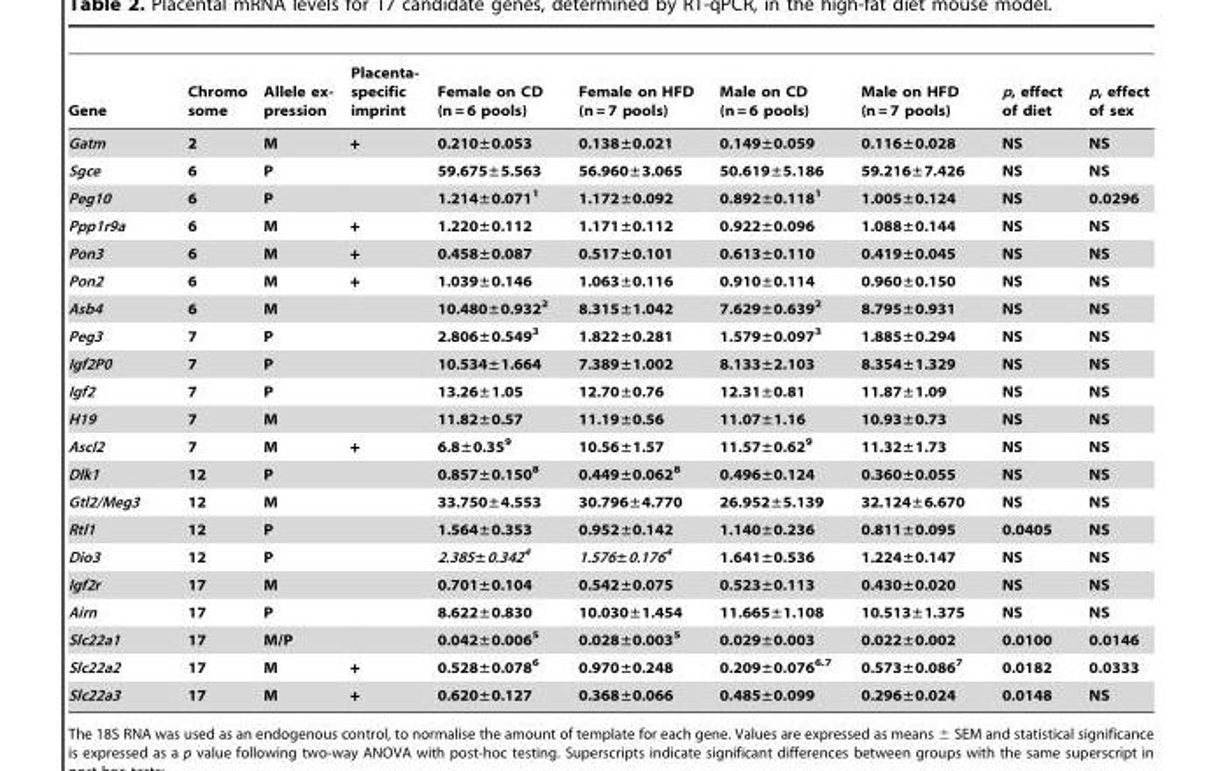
<table><thead><tr><td>Gene</td><td>Chromo some</td><td>Allele ex- pression</td><td>Placenta- specific imprint</td><td>Female on CD (n = 6 pools)</td><td>Female on HFD (n = 7 pools)</td><td>Male on CD (n = 6 pools)</td><td>Male on HFD (n = 7 pools)</td><td>p, effect of diet</td><td>p, effect of sex</td></tr></thead><tbody><tr><td>Gatm</td><td>2</td><td>M</td><td>+</td><td>0.210±0.053</td><td>0.138±0.021</td><td>0.149±0.059</td><td>0.116±0.028</td><td>NS</td><td>NS</td></tr><tr><td>Sgce</td><td>6</td><td>P</td><td></td><td>59.675±5.563</td><td>56.960±3.065</td><td>50.619±5.186</td><td>59.216±7.426</td><td>NS</td><td>NS</td></tr><tr><td>Peg10</td><td>6</td><td>P</td><td></td><td>1.214±0.0711</td><td>1.172±0.092</td><td>0.892±0.1181</td><td>1.005±0.124</td><td>NS</td><td>0.0296</td></tr><tr><td>Ppp1r9a</td><td>6</td><td>M</td><td>+</td><td>1.220±0.112</td><td>1.171±0.112</td><td>0.922±0.096</td><td>1.088±0.144</td><td>NS</td><td>NS</td></tr><tr><td>Pon3</td><td>6</td><td>M</td><td>+</td><td>0.458±0.087</td><td>0.517±0.101</td><td>0.613±0.110</td><td>0.419±0.045</td><td>NS</td><td>NS</td></tr><tr><td>Pon2</td><td>6</td><td>M</td><td>+</td><td>1.039±0.146</td><td>1.063±0.116</td><td>0.910±0.114</td><td>0.960±0.150</td><td>NS</td><td>NS</td></tr><tr><td>Asb4</td><td>6</td><td>M</td><td></td><td>10.480±0.9322</td><td>8.315±1.042</td><td>7.629±0.6392</td><td>8.795±0.931</td><td>NS</td><td>NS</td></tr><tr><td>Peg3</td><td>7</td><td>P</td><td></td><td>2.806±0.5493</td><td>1.822±0.281</td><td>1.579±0.0973</td><td>1.885±0.294</td><td>NS</td><td>NS</td></tr><tr><td>Igf2P0</td><td>7</td><td>P</td><td></td><td>10.534±1.664</td><td>7.389±1.002</td><td>8.133±2.103</td><td>8.354±1.329</td><td>NS</td><td>NS</td></tr><tr><td>Igf2</td><td>7</td><td>P</td><td></td><td>13.26±1.05</td><td>12.70±0.76</td><td>12.31±0.81</td><td>11.87±1.09</td><td>NS</td><td>NS</td></tr><tr><td>H19</td><td>7</td><td>M</td><td></td><td>11.82±0.57</td><td>11.19±0.56</td><td>11.07±1.16</td><td>10.93±0.73</td><td>NS</td><td>NS</td></tr><tr><td>Ascl2</td><td>7</td><td>M</td><td>+</td><td>6.8±0.359</td><td>10.56±1.57</td><td>11.57±0.629</td><td>11.32±1.73</td><td>NS</td><td>NS</td></tr><tr><td>Dlk1</td><td>12</td><td>P</td><td></td><td>0.857±0.1508</td><td>0.449±0.0628</td><td>0.496±0.124</td><td>0.360±0.055</td><td>NS</td><td>NS</td></tr><tr><td>Gtl2/Meg3</td><td>12</td><td>M</td><td></td><td>33.750±4.553</td><td>30.796±4.770</td><td>26.952±5.139</td><td>32.124±6.670</td><td>NS</td><td>NS</td></tr><tr><td>Rtl1</td><td>12</td><td>P</td><td></td><td>1.564±0.353</td><td>0.952±0.142</td><td>1.140±0.236</td><td>0.811±0.095</td><td>0.0405</td><td>NS</td></tr><tr><td>Dio3</td><td>12</td><td>P</td><td></td><td>2.385±0.3424</td><td>1.576±0.1764</td><td>1.641±0.536</td><td>1.224±0.147</td><td>NS</td><td>NS</td></tr><tr><td>Igf2r</td><td>17</td><td>M</td><td></td><td>0.701±0.104</td><td>0.542±0.075</td><td>0.523±0.113</td><td>0.430±0.020</td><td>NS</td><td>NS</td></tr><tr><td>Airn</td><td>17</td><td>P</td><td></td><td>8.622±0.830</td><td>10.030±1.454</td><td>11.665±1.108</td><td>10.513±1.375</td><td>NS</td><td>NS</td></tr><tr><td>Slc22a1</td><td>17</td><td>M/P</td><td></td><td>0.042±0.0065</td><td>0.028±0.0035</td><td>0.029±0.003</td><td>0.022±0.002</td><td>0.0100</td><td>0.0146</td></tr><tr><td>Slc22a2</td><td>17</td><td>M</td><td>+</td><td>0.528±0.0786</td><td>0.970±0.248</td><td>0.209±0.076<sup>6.7</sup></td><td>0.573±0.0867</td><td>0.0182</td><td>0.0333</td></tr><tr><td>Slc22a3</td><td>17</td><td>M</td><td>+</td><td>0.620±0.127</td><td>0.368±0.066</td><td>0.485±0.099</td><td>0.296±0.024</td><td>0.0148</td><td>NS</td></tr></tbody></table>